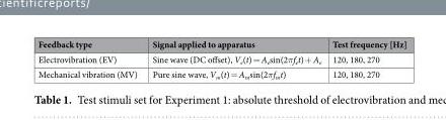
<table><thead><tr><td>Feedback type</td><td>Signal applied to apparatus</td><td>Test frequency [Hz]</td></tr></thead><tbody><tr><td>Electrovibration (EV)</td><td>Sine wave (DC offset), V<sub>e</sub>(t) = A<sub>e</sub>sin(2πf<sub>e</sub>t) + A<sub>e</sub></td><td>120, 180, 270</td></tr><tr><td>Mechanical vibration (MV)</td><td>Pure sine wave, V<sub>m</sub>(t) = A<sub>m</sub>sin(2πf<sub>m</sub>t)</td><td>120, 180, 270</td></tr></tbody></table>